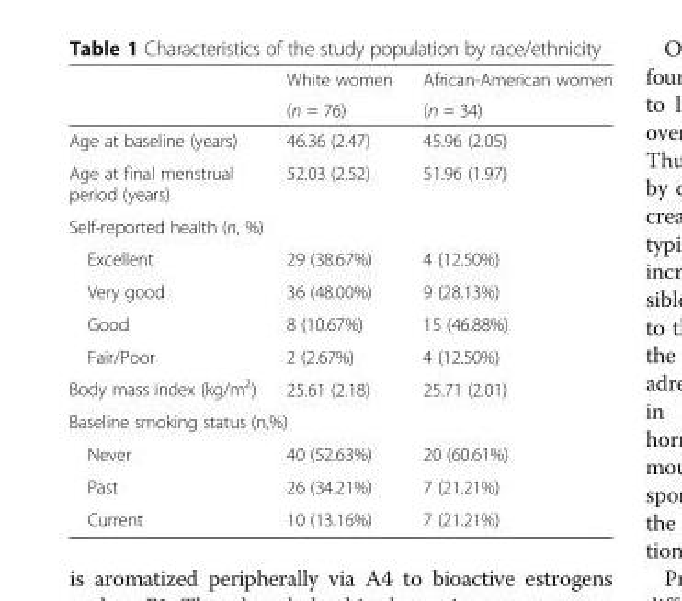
<table><thead><tr><td rowspan="2"></td><td rowspan="2">White women (n = 76)</td><td rowspan="2">African-American women (n = 34)</td></tr><tr></tr></thead><tbody><tr><td>Age at baseline (years)</td><td>46.36 (2.47)</td><td>45.96 (2.05)</td></tr><tr><td>Age at final menstrual period (years)</td><td>52.03 (2.52)</td><td>51.96 (1.97)</td></tr><tr><td colspan="3">Self-reported health (n, %)</td></tr><tr><td>Excellent</td><td>29 (38.67%)</td><td>4 (12.50%)</td></tr><tr><td>Very good</td><td>36 (48.00%)</td><td>9 (28.13%)</td></tr><tr><td>Good</td><td>8 (10.67%)</td><td>15 (46.88%)</td></tr><tr><td>Fair/Poor</td><td>2 (2.67%)</td><td>4 (12.50%)</td></tr><tr><td>Body mass index (kg/m<sup>2</sup>)</td><td>25.61 (2.18)</td><td>25.71 (2.01)</td></tr><tr><td colspan="3">Baseline smoking status (n,%)</td></tr><tr><td>Never</td><td>40 (52.63%)</td><td>20 (60.61%)</td></tr><tr><td>Past</td><td>26 (34.21%)</td><td>7 (21.21%)</td></tr><tr><td>Current</td><td>10 (13.16%)</td><td>7 (21.21%)</td></tr></tbody></table>